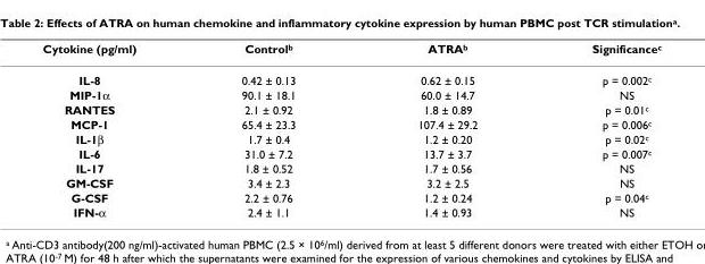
<table><thead><tr><td>Cytokine (pg/ml)</td><td>Control<sup>b</sup></td><td>ATRA<sup>b</sup></td><td>Significance<sup>c</sup></td></tr></thead><tbody><tr><td>IL-8</td><td>0.42 ± 0.13</td><td>0.62 ± 0.15</td><td>p = 0.002<sup>c</sup></td></tr><tr><td>MIP-1α</td><td>90.1 ± 18.1</td><td>60.0 ± 14.7</td><td>NS</td></tr><tr><td>RANTES</td><td>2.1 ± 0.92</td><td>1.8 ± 0.89</td><td>p = 0.01<sup>c</sup></td></tr><tr><td>MCP-1</td><td>65.4 ± 23.3</td><td>107.4 ± 29.2</td><td>p = 0.006<sup>c</sup></td></tr><tr><td>IL-1β</td><td>1.7 ± 0.4</td><td>1.2 ± 0.20</td><td>p = 0.02<sup>c</sup></td></tr><tr><td>IL-6</td><td>31.0 ± 7.2</td><td>13.7 ± 3.7</td><td>p = 0.007<sup>c</sup></td></tr><tr><td>IL-17</td><td>1.8 ± 0.52</td><td>1.7 ± 0.56</td><td>NS</td></tr><tr><td>GM-CSF</td><td>3.4 ± 2.3</td><td>3.2 ± 2.5</td><td>NS</td></tr><tr><td>G-CSF</td><td>2.2 ± 0.76</td><td>1.2 ± 0.24</td><td>p = 0.04<sup>c</sup></td></tr><tr><td>IFN-α</td><td>2.4 ± 1.1</td><td>1.4 ± 0.93</td><td>NS</td></tr></tbody></table>